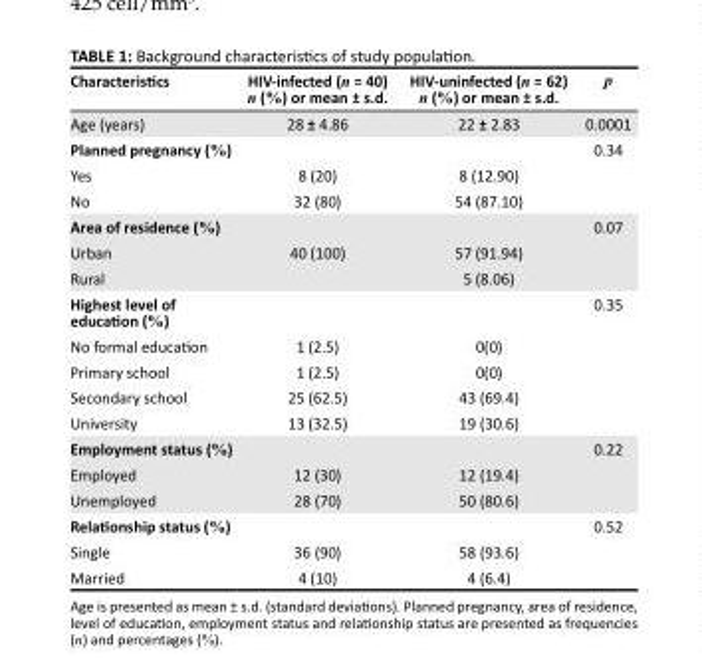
<table><thead><tr><td>Characteristics</td><td>HIV-infected (n = 40) n (%) or mean ± s.d.</td><td>HIV-uninfected (n = 62) n (%) or mean ± s.d.</td><td>p</td></tr></thead><tbody><tr><td>Age (years)</td><td>28 ± 4.86</td><td>22 ± 2.83</td><td>0.0001</td></tr><tr><td colspan="3">Planned pregnancy (%)</td><td rowspan="3">0.34</td></tr><tr><td>Yes</td><td>8 (20)</td><td>8 (12.90)</td></tr><tr><td>No</td><td>32 (80)</td><td>54 (87.10)</td></tr><tr><td colspan="3">Area of residence (%)</td><td rowspan="3">0.07</td></tr><tr><td>Urban</td><td>40 (100)</td><td>57 (91.94)</td></tr><tr><td>Rural</td><td></td><td>5 (8.06)</td></tr><tr><td colspan="3">Highest level of education (%)</td><td rowspan="5">0.35</td></tr><tr><td>No formal education</td><td>1 (2.5)</td><td>0(0)</td></tr><tr><td>Primary school</td><td>1 (2.5)</td><td>0(0)</td></tr><tr><td>Secondary school</td><td>25 (62.5)</td><td>43 (69.4)</td></tr><tr><td>University</td><td>13 (32.5)</td><td>19 (30.6)</td></tr><tr><td colspan="3">Employment status (%)</td><td rowspan="3">0.22</td></tr><tr><td>Employed</td><td>12 (30)</td><td>12 (19.4)</td></tr><tr><td>Unemployed</td><td>28 (70)</td><td>50 (80.6)</td></tr><tr><td colspan="3">Relationship status (%)</td><td rowspan="3">0.52</td></tr><tr><td>Single</td><td>36 (90)</td><td>58 (93.6)</td></tr><tr><td>Married</td><td>4 (10)</td><td>4 (6.4)</td></tr></tbody></table>